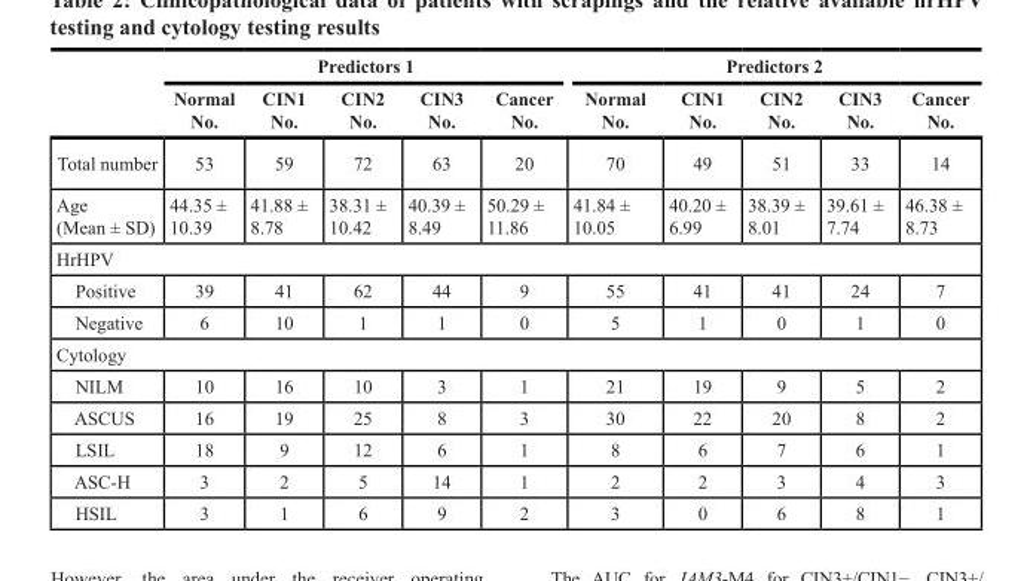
<table><thead><tr><td rowspan="2"></td><td colspan="5">Predictors 1</td><td colspan="5">Predictors 2</td></tr><tr><td>Normal No.</td><td>CIN1 No.</td><td>CIN2 No.</td><td>CIN3 No.</td><td>Cancer No.</td><td>Normal No.</td><td>CIN1 No.</td><td>CIN2 No.</td><td>CIN3 No.</td><td>Cancer No.</td></tr></thead><tbody><tr><td>Total number</td><td>53</td><td>59</td><td>72</td><td>63</td><td>20</td><td>70</td><td>49</td><td>51</td><td>33</td><td>14</td></tr><tr><td>Age (Mean ± SD)</td><td>44.35 ± 10.39</td><td>41.88 ± 8.78</td><td>38.31 ± 10.42</td><td>40.39 ± 8.49</td><td>50.29 ± 11.86</td><td>41.84 ± 10.05</td><td>40.20 ± 6.99</td><td>38.39 ± 8.01</td><td>39.61 ± 7.74</td><td>46.38 ± 8.73</td></tr><tr><td colspan="11">HrHPV</td></tr><tr><td>Positive</td><td>39</td><td>41</td><td>62</td><td>44</td><td>9</td><td>55</td><td>41</td><td>41</td><td>24</td><td>7</td></tr><tr><td>Negative</td><td>6</td><td>10</td><td>1</td><td>1</td><td>0</td><td>5</td><td>1</td><td>0</td><td>1</td><td>0</td></tr><tr><td colspan="11">Cytology</td></tr><tr><td>NILM</td><td>10</td><td>16</td><td>10</td><td>3</td><td>1</td><td>21</td><td>19</td><td>9</td><td>5</td><td>2</td></tr><tr><td>ASCUS</td><td>16</td><td>19</td><td>25</td><td>8</td><td>3</td><td>30</td><td>22</td><td>20</td><td>8</td><td>2</td></tr><tr><td>LSIL</td><td>18</td><td>9</td><td>12</td><td>6</td><td>1</td><td>8</td><td>6</td><td>7</td><td>6</td><td>1</td></tr><tr><td>ASC-H</td><td>3</td><td>2</td><td>5</td><td>14</td><td>1</td><td>2</td><td>2</td><td>3</td><td>4</td><td>3</td></tr><tr><td>HSIL</td><td>3</td><td>1</td><td>6</td><td>9</td><td>2</td><td>3</td><td>0</td><td>6</td><td>8</td><td>1</td></tr></tbody></table>